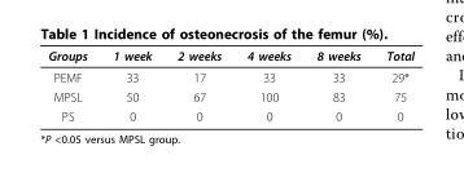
<table><thead><tr><td>Groups</td><td>1 week</td><td>2 weeks</td><td>4 weeks</td><td>8 weeks</td><td>Total</td></tr></thead><tbody><tr><td>PEMF</td><td>33</td><td>17</td><td>33</td><td>33</td><td>29*</td></tr><tr><td>MPSL</td><td>50</td><td>67</td><td>100</td><td>83</td><td>75</td></tr><tr><td>PS</td><td>0</td><td>0</td><td>0</td><td>0</td><td>0</td></tr></tbody></table>